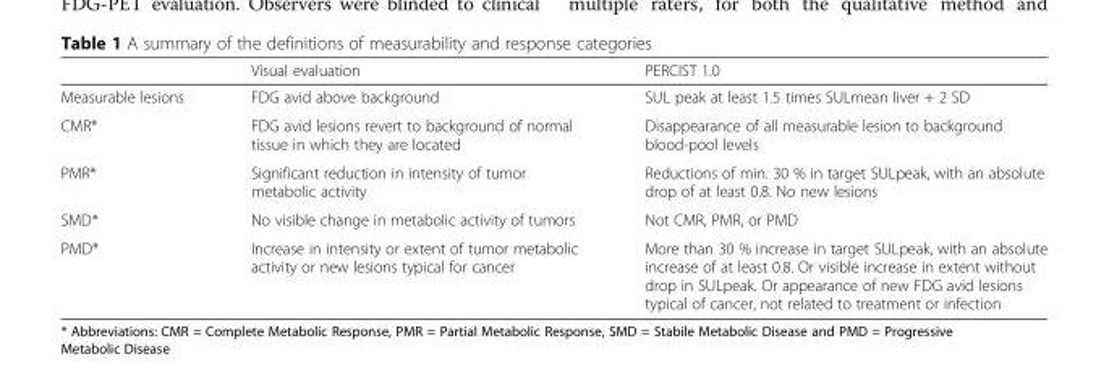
<table><thead><tr><td></td><td>Visual evaluation</td><td>PERCIST 1.0</td></tr></thead><tbody><tr><td>Measurable lesions</td><td>FDG avid above background</td><td>SUL peak at least 1.5 times SULmean liver + 2 SD</td></tr><tr><td>CMR*</td><td>FDG avid lesions revert to background of normal tissue in which they are located</td><td>Disappearance of all measurable lesion to background blood-pool levels</td></tr><tr><td>PMR*</td><td>Significant reduction in intensity of tumor metabolic activity</td><td>Reductions of min. 30 % in target SULpeak, with an absolute drop of at least 0.8. No new lesions</td></tr><tr><td>SMD*</td><td>No visible change in metabolic activity of tumors</td><td>Not CMR, PMR, or PMD</td></tr><tr><td>PMD*</td><td>Increase in intensity or extent of tumor metabolic activity or new lesions typical for cancer</td><td>More than 30 % increase in target SULpeak, with an absolute increase of at least 0.8. Or visible increase in extent without drop in SULpeak. Or appearance of new FDG avid lesions typical of cancer, not related to treatment or infection</td></tr></tbody></table>